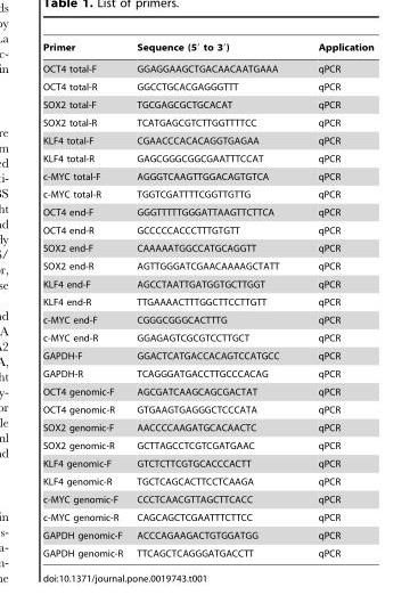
<table><thead><tr><td>Primer</td><td>Sequence (5′ to 3′)</td><td>Application</td></tr></thead><tbody><tr><td>OCT4 total-F</td><td>GGAGGAAGCTGACAACAATGAAA</td><td>qPCR</td></tr><tr><td>OCT4 total-R</td><td>GGCCTGCACGAGGGTTT</td><td>qPCR</td></tr><tr><td>SOX2 total-F</td><td>TGCGAGCGCTGCACAT</td><td>qPCR</td></tr><tr><td>SOX2 total-R</td><td>TCATGAGCGTCTTGGTTTTCC</td><td>qPCR</td></tr><tr><td>KLF4 total-F</td><td>CGAACCCACACAGGTGAGAA</td><td>qPCR</td></tr><tr><td>KLF4 total-R</td><td>GAGCGGGCGGCGAATTTCCAT</td><td>qPCR</td></tr><tr><td>c-MYC total-F</td><td>AGGGTCAAGTTGGACAGTGTCA</td><td>qPCR</td></tr><tr><td>c-MYC total-R</td><td>TGGTCGATTTTCGGTTGTTG</td><td>qPCR</td></tr><tr><td>OCT4 end-F</td><td>GGGTTTTTGGGATTAAGTTCTTCA</td><td>qPCR</td></tr><tr><td>OCT4 end-R</td><td>GCCCCCACCCTTTGTGTT</td><td>qPCR</td></tr><tr><td>SOX2 end-F</td><td>CAAAAATGGCCATGCAGGTT</td><td>qPCR</td></tr><tr><td>SOX2 end-R</td><td>AGTTGGGATCGAACAAAAGCTATT</td><td>qPCR</td></tr><tr><td>KLF4 end-F</td><td>AGCCTAATTGATGGTGCTTGGT</td><td>qPCR</td></tr><tr><td>KLF4 end-R</td><td>TTGAAAACTTTGGCTTCCTTGTT</td><td>qPCR</td></tr><tr><td>c-MYC end-F</td><td>CGGGCGGGCACTTTG</td><td>qPCR</td></tr><tr><td>c-MYC end-R</td><td>GGAGAGTCGCGTCCTTGCT</td><td>qPCR</td></tr><tr><td>GAPDH-F</td><td>GGACTCATGACCACAGTCCATGCC</td><td>qPCR</td></tr><tr><td>GAPDH-R</td><td>TCAGGGATGACCTTGCCCACAG</td><td>qPCR</td></tr><tr><td>OCT4 genomic-F</td><td>AGCGATCAAGCAGCGACTAT</td><td>qPCR</td></tr><tr><td>OCT4 genomic-R</td><td>GTGAAGTGAGGGCTCCCATA</td><td>qPCR</td></tr><tr><td>SOX2 genomic-F</td><td>AACCCCAAGATGCACAACTC</td><td>qPCR</td></tr><tr><td>SOX2 genomic-R</td><td>GCTTAGCCTCGTCGATGAAC</td><td>qPCR</td></tr><tr><td>KLF4 genomic-F</td><td>GTCTCTTCGTGCACCCACTT</td><td>qPCR</td></tr><tr><td>KLF4 genomic-R</td><td>TGCTCAGCACTTCCTCAAGA</td><td>qPCR</td></tr><tr><td>c-MYC genomic-F</td><td>CCCTCAACGTTAGCTTCACC</td><td>qPCR</td></tr><tr><td>c-MYC genomic-R</td><td>CAGCAGCTCGAATTTCTTCC</td><td>qPCR</td></tr><tr><td>GAPDH genomic-F</td><td>ACCCAGAAGACTGTGGATGG</td><td>qPCR</td></tr><tr><td>GAPDH genomic-R</td><td>TTCAGCTCAGGGATGACCTT</td><td>qPCR</td></tr></tbody></table>